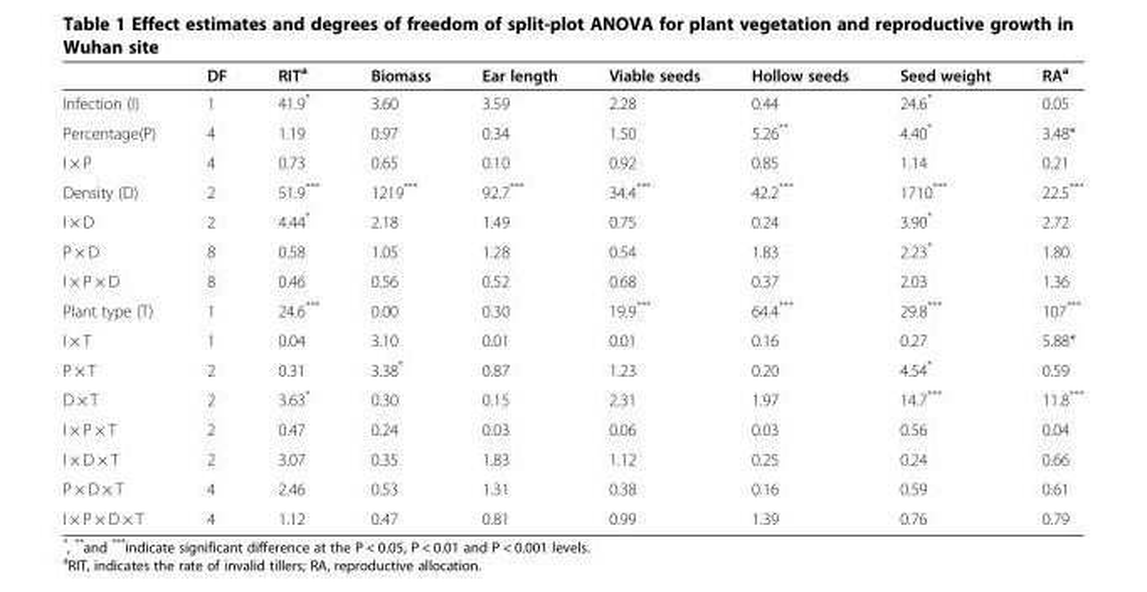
<table><thead><tr><td></td><td>DF</td><td>RIT<sup>a</sup></td><td>Biomass</td><td>Ear length</td><td>Viable seeds</td><td>Hollow seeds</td><td>Seed weight</td><td>RA<sup>a</sup></td></tr></thead><tbody><tr><td>Infection (I)</td><td>1</td><td>41.9*</td><td>3.60</td><td>3.59</td><td>2.28</td><td>0.44</td><td>24.6*</td><td>0.05</td></tr><tr><td>Percentage(P)</td><td>4</td><td>1.19</td><td>0.97</td><td>0.34</td><td>1.50</td><td>5.26**</td><td>4.40*</td><td>3.48*</td></tr><tr><td>I × P</td><td>4</td><td>0.73</td><td>0.65</td><td>0.10</td><td>0.92</td><td>0.85</td><td>1.14</td><td>0.21</td></tr><tr><td>Density (D)</td><td>2</td><td>51.9***</td><td>1219***</td><td>92.7***</td><td>34.4***</td><td>42.2***</td><td>1710***</td><td>22.5***</td></tr><tr><td>I × D</td><td>2</td><td>4.44*</td><td>2.18</td><td>1.49</td><td>0.75</td><td>0.24</td><td>3.90*</td><td>2.72</td></tr><tr><td>P × D</td><td>8</td><td>0.58</td><td>1.05</td><td>1.28</td><td>0.54</td><td>1.83</td><td>2.23*</td><td>1.80</td></tr><tr><td>I × P × D</td><td>8</td><td>0.46</td><td>0.56</td><td>0.52</td><td>0.68</td><td>0.37</td><td>2.03</td><td>1.36</td></tr><tr><td>Plant type (T)</td><td>1</td><td>24.6***</td><td>0.00</td><td>0.30</td><td>19.9***</td><td>64.4***</td><td>29.8***</td><td>107***</td></tr><tr><td>I × T</td><td>1</td><td>0.04</td><td>3.10</td><td>0.01</td><td>0.01</td><td>0.16</td><td>0.27</td><td>5.88*</td></tr><tr><td>P × T</td><td>2</td><td>0.31</td><td>3.38*</td><td>0.87</td><td>1.23</td><td>0.20</td><td>4.54*</td><td>0.59</td></tr><tr><td>D × T</td><td>2</td><td>3.63*</td><td>0.30</td><td>0.15</td><td>2.31</td><td>1.97</td><td>14.7***</td><td>11.8***</td></tr><tr><td>I × P × T</td><td>2</td><td>0.47</td><td>0.24</td><td>0.03</td><td>0.06</td><td>0.03</td><td>0.56</td><td>0.04</td></tr><tr><td>I × D × T</td><td>2</td><td>3.07</td><td>0.35</td><td>1.83</td><td>1.12</td><td>0.25</td><td>0.24</td><td>0.66</td></tr><tr><td>P × D × T</td><td>4</td><td>2.46</td><td>0.53</td><td>1.31</td><td>0.38</td><td>0.16</td><td>0.59</td><td>0.61</td></tr><tr><td>I × P × D × T</td><td>4</td><td>1.12</td><td>0.47</td><td>0.81</td><td>0.99</td><td>1.39</td><td>0.76</td><td>0.79</td></tr></tbody></table>